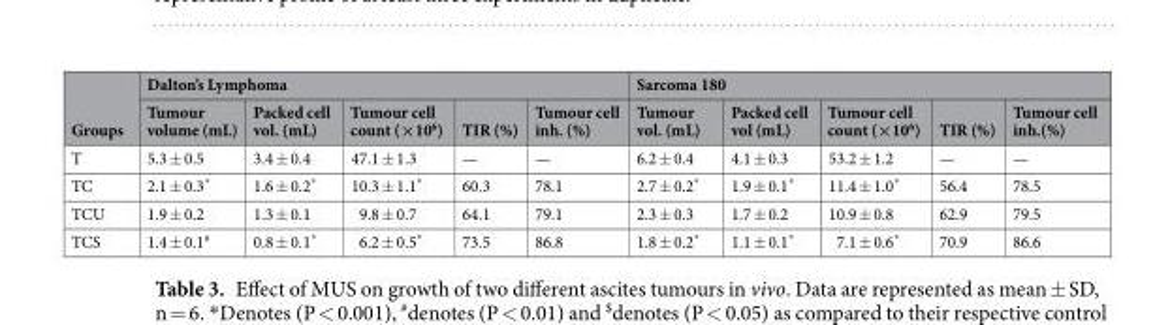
<table><thead><tr><td rowspan="2">Groups</td><td colspan="5">Dalton’s Lymphoma</td><td colspan="5">Sarcoma 180</td></tr><tr><td>Tumour volume (mL)</td><td>Packed cell vol. (mL)</td><td>Tumour cell count (×10<sup>6</sup>)</td><td>TIR (%)</td><td>Tumour cell inh. (%)</td><td>Tumour vol. (mL)</td><td>Packed cell vol (mL)</td><td>Tumour cell count (×10<sup>6</sup>)</td><td>TIR (%)</td><td>Tumour cell inh.(%)</td></tr></thead><tbody><tr><td>T</td><td>5.3 ± 0.5</td><td>3.4 ± 0.4</td><td>47.1 ± 1.3</td><td>—</td><td>—</td><td>6.2 ± 0.4</td><td>4.1 ± 0.3</td><td>53.2 ± 1.2</td><td>—</td><td>—</td></tr><tr><td>TC</td><td>2.1 ± 0.3*</td><td>1.6 ± 0.2*</td><td>10.3 ± 1.1*</td><td>60.3</td><td>78.1</td><td>2.7 ± 0.2*</td><td>1.9 ± 0.1*</td><td>11.4 ± 1.0*</td><td>56.4</td><td>78.5</td></tr><tr><td>TCU</td><td>1.9 ± 0.2</td><td>1.3 ± 0.1</td><td>9.8 ± 0.7</td><td>64.1</td><td>79.1</td><td>2.3 ± 0.3</td><td>1.7 ± 0.2</td><td>10.9 ± 0.8</td><td>62.9</td><td>79.5</td></tr><tr><td>TCS</td><td>1.4 ± 0.1<sup>#</sup></td><td>0.8 ± 0.1*</td><td>6.2 ± 0.5*</td><td>73.5</td><td>86.8</td><td>1.8 ± 0.2*</td><td>1.1 ± 0.1*</td><td>7.1 ± 0.6*</td><td>70.9</td><td>86.6</td></tr></tbody></table>